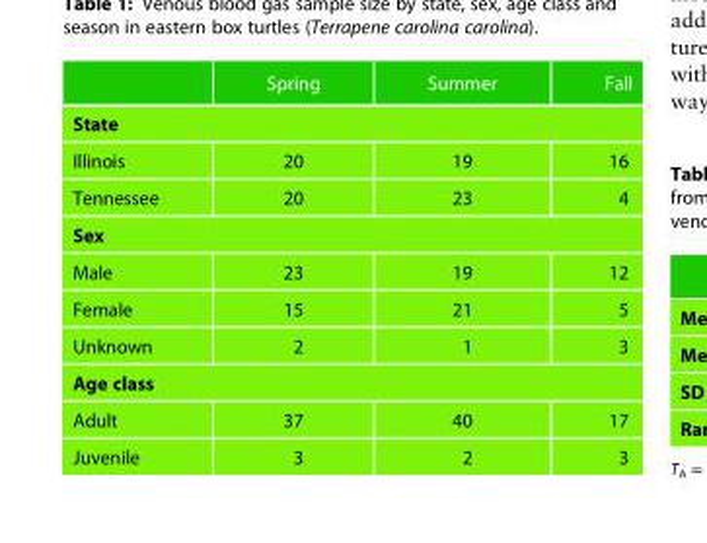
<table><thead><tr><td></td><td>Spring</td><td>Summer</td><td>Fall</td></tr></thead><tbody><tr><td colspan="4">State</td></tr><tr><td>Illinois</td><td>20</td><td>19</td><td>16</td></tr><tr><td>Tennessee</td><td>20</td><td>23</td><td>4</td></tr><tr><td colspan="4">Sex</td></tr><tr><td>Male</td><td>23</td><td>19</td><td>12</td></tr><tr><td>Female</td><td>15</td><td>21</td><td>5</td></tr><tr><td>Unknown</td><td>2</td><td>1</td><td>3</td></tr><tr><td colspan="4">Age class</td></tr><tr><td>Adult</td><td>37</td><td>40</td><td>17</td></tr><tr><td>Juvenile</td><td>3</td><td>2</td><td>3</td></tr></tbody></table>